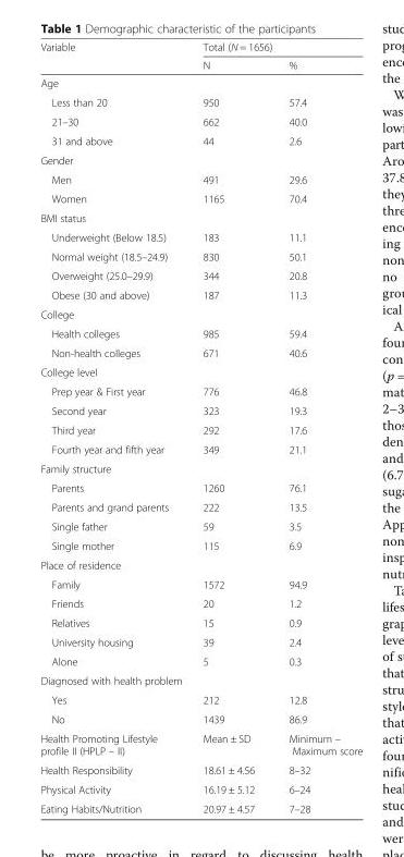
<table><thead><tr><td rowspan="2">Variable</td><td colspan="2">Total (N = 1656)</td></tr><tr><td>N</td><td>%</td></tr></thead><tbody><tr><td colspan="3">Age</td></tr><tr><td>Less than 20</td><td>950</td><td>57.4</td></tr><tr><td>21–30</td><td>662</td><td>40.0</td></tr><tr><td>31 and above</td><td>44</td><td>2.6</td></tr><tr><td colspan="3">Gender</td></tr><tr><td>Men</td><td>491</td><td>29.6</td></tr><tr><td>Women</td><td>1165</td><td>70.4</td></tr><tr><td colspan="3">BMI status</td></tr><tr><td>Underweight (Below 18.5)</td><td>183</td><td>11.1</td></tr><tr><td>Normal weight (18.5–24.9)</td><td>830</td><td>50.1</td></tr><tr><td>Overweight (25.0–29.9)</td><td>344</td><td>20.8</td></tr><tr><td>Obese (30 and above)</td><td>187</td><td>11.3</td></tr><tr><td colspan="3">College</td></tr><tr><td>Health colleges</td><td>985</td><td>59.4</td></tr><tr><td>Non-health colleges</td><td>671</td><td>40.6</td></tr><tr><td colspan="3">College level</td></tr><tr><td>Prep year &amp; First year</td><td>776</td><td>46.8</td></tr><tr><td>Second year</td><td>323</td><td>19.3</td></tr><tr><td>Third year</td><td>292</td><td>17.6</td></tr><tr><td>Fourth year and fifth year</td><td>349</td><td>21.1</td></tr><tr><td colspan="3">Family structure</td></tr><tr><td>Parents</td><td>1260</td><td>76.1</td></tr><tr><td>Parents and grand parents</td><td>222</td><td>13.5</td></tr><tr><td>Single father</td><td>59</td><td>3.5</td></tr><tr><td>Single mother</td><td>115</td><td>6.9</td></tr><tr><td colspan="3">Place of residence</td></tr><tr><td>Family</td><td>1572</td><td>94.9</td></tr><tr><td>Friends</td><td>20</td><td>1.2</td></tr><tr><td>Relatives</td><td>15</td><td>0.9</td></tr><tr><td>University housing</td><td>39</td><td>2.4</td></tr><tr><td>Alone</td><td>5</td><td>0.3</td></tr><tr><td colspan="3">Diagnosed with health problem</td></tr><tr><td>Yes</td><td>212</td><td>12.8</td></tr><tr><td>No</td><td>1439</td><td>86.9</td></tr><tr><td>Health Promoting Lifestyle profile II (HPLP – II)</td><td>Mean ± SD</td><td>Minimum – Maximum score</td></tr><tr><td>Health Responsibility</td><td>18.61 ± 4.56</td><td>8–32</td></tr><tr><td>Physical Activity</td><td>16.19 ± 5.12</td><td>6–24</td></tr><tr><td>Eating Habits/Nutrition</td><td>20.97 ± 4.57</td><td>7–28</td></tr></tbody></table>